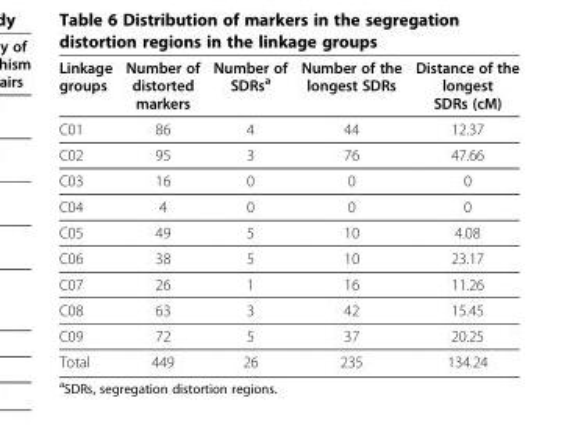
<table><thead><tr><td>Linkage groups</td><td>Number of distorted markers</td><td>Number of SDRs<sup>a</sup></td><td>Number of the longest SDRs</td><td>Distance of the longest SDRs (cM)</td></tr></thead><tbody><tr><td>C01</td><td>86</td><td>4</td><td>44</td><td>12.37</td></tr><tr><td>C02</td><td>95</td><td>3</td><td>76</td><td>47.66</td></tr><tr><td>C03</td><td>16</td><td>0</td><td>0</td><td>0</td></tr><tr><td>C04</td><td>4</td><td>0</td><td>0</td><td>0</td></tr><tr><td>C05</td><td>49</td><td>5</td><td>10</td><td>4.08</td></tr><tr><td>C06</td><td>38</td><td>5</td><td>10</td><td>23.17</td></tr><tr><td>C07</td><td>26</td><td>1</td><td>16</td><td>11.26</td></tr><tr><td>C08</td><td>63</td><td>3</td><td>42</td><td>15.45</td></tr><tr><td>C09</td><td>72</td><td>5</td><td>37</td><td>20.25</td></tr><tr><td>Total</td><td>449</td><td>26</td><td>235</td><td>134.24</td></tr></tbody></table>